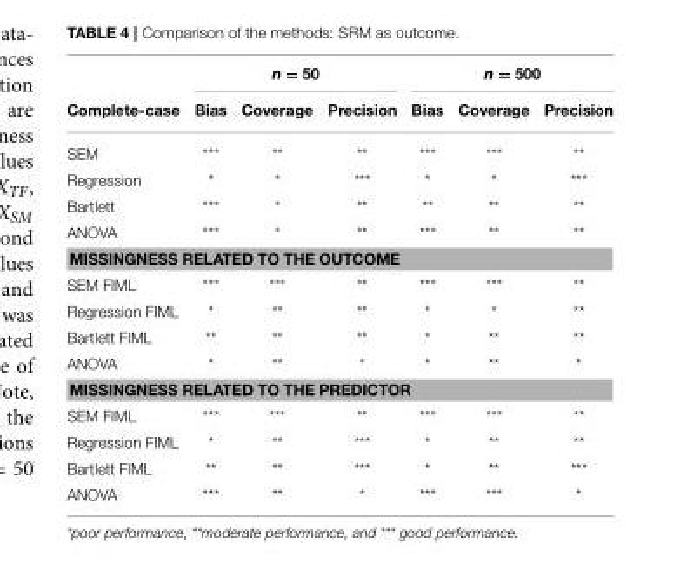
<table><thead><tr><td rowspan="2">Complete-case</td><td colspan="3">n = 50</td><td colspan="3">n = 500</td></tr><tr><td>Bias</td><td>Coverage</td><td>Precision</td><td>Bias</td><td>Coverage</td><td>Precision</td></tr></thead><tbody><tr><td>SEM</td><td>***</td><td>**</td><td>**</td><td>***</td><td>***</td><td>**</td></tr><tr><td>Regression</td><td>*</td><td>*</td><td>***</td><td>*</td><td>*</td><td>***</td></tr><tr><td>Bartlett</td><td>***</td><td>*</td><td>**</td><td>**</td><td>**</td><td>**</td></tr><tr><td>ANOVA</td><td>***</td><td>*</td><td>**</td><td>***</td><td>**</td><td>**</td></tr><tr><td colspan="7">MISSINGNESS RELATED TO THE OUTCOME</td></tr><tr><td>SEM FIML</td><td>***</td><td>***</td><td>**</td><td>***</td><td>***</td><td>**</td></tr><tr><td>Regression FIML</td><td>*</td><td>**</td><td>**</td><td>*</td><td>*</td><td>**</td></tr><tr><td>Bartlett FIML</td><td>**</td><td>**</td><td>**</td><td>*</td><td>**</td><td>**</td></tr><tr><td>ANOVA</td><td>*</td><td>**</td><td>*</td><td>*</td><td>**</td><td>*</td></tr><tr><td colspan="7">MISSINGNESS RELATED TO THE PREDICTOR</td></tr><tr><td>SEM FIML</td><td>***</td><td>***</td><td>**</td><td>***</td><td>***</td><td>**</td></tr><tr><td>Regression FIML</td><td>*</td><td>**</td><td>***</td><td>*</td><td>**</td><td>**</td></tr><tr><td>Bartlett FIML</td><td>**</td><td>**</td><td>***</td><td>*</td><td>**</td><td>***</td></tr><tr><td>ANOVA</td><td>***</td><td>**</td><td>*</td><td>***</td><td>***</td><td>*</td></tr></tbody></table>